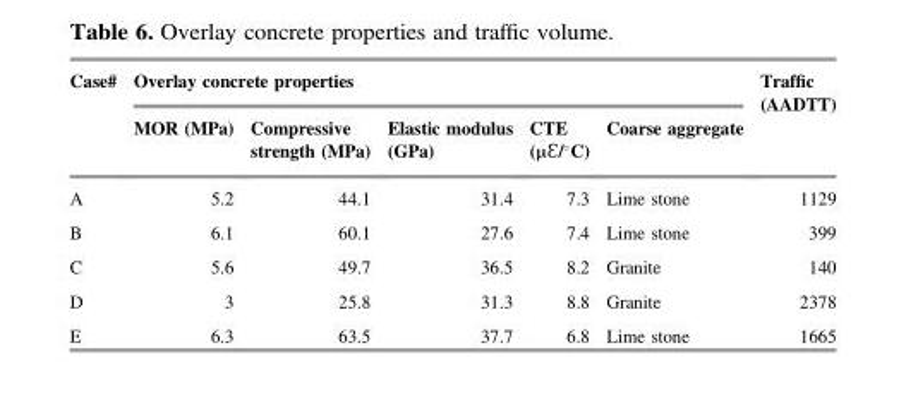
<table><thead><tr><td rowspan="2">Case#</td><td colspan="5">Overlay concrete properties</td><td rowspan="2">Traffic (AADTT)</td></tr><tr><td>MOR (MPa)</td><td>Compressive strength (MPa)</td><td>Elastic modulus (GPa)</td><td>CTE (μԐ/°C)</td><td>Coarse aggregate</td></tr></thead><tbody><tr><td>A</td><td>5.2</td><td>44.1</td><td>31.4</td><td>7.3</td><td>Lime stone</td><td>1129</td></tr><tr><td>B</td><td>6.1</td><td>60.1</td><td>27.6</td><td>7.4</td><td>Lime stone</td><td>399</td></tr><tr><td>C</td><td>5.6</td><td>49.7</td><td>36.5</td><td>8.2</td><td>Granite</td><td>140</td></tr><tr><td>D</td><td>3</td><td>25.8</td><td>31.3</td><td>8.8</td><td>Granite</td><td>2378</td></tr><tr><td>E</td><td>6.3</td><td>63.5</td><td>37.7</td><td>6.8</td><td>Lime stone</td><td>1665</td></tr></tbody></table>